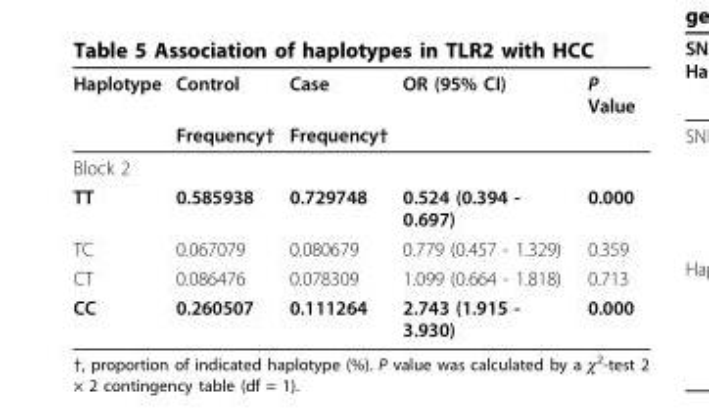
<table><thead><tr><td rowspan="2">Haplotype</td><td rowspan="2">Control Frequency†</td><td rowspan="2">Case Frequency†</td><td rowspan="2">OR (95% CI)</td><td rowspan="2">P Value</td></tr><tr></tr></thead><tbody><tr><td colspan="5">Block 2</td></tr><tr><td>TT</td><td>0.585938</td><td>0.729748</td><td>0.524 (0.394 - 0.697)</td><td>0.000</td></tr><tr><td>TC</td><td>0.067079</td><td>0.080679</td><td>0.779 (0.457 - 1.329)</td><td>0.359</td></tr><tr><td>CT</td><td>0.086476</td><td>0.078309</td><td>1.099 (0.664 - 1.818)</td><td>0.713</td></tr><tr><td>CC</td><td>0.260507</td><td>0.111264</td><td>2.743 (1.915 - 3.930)</td><td>0.000</td></tr></tbody></table>